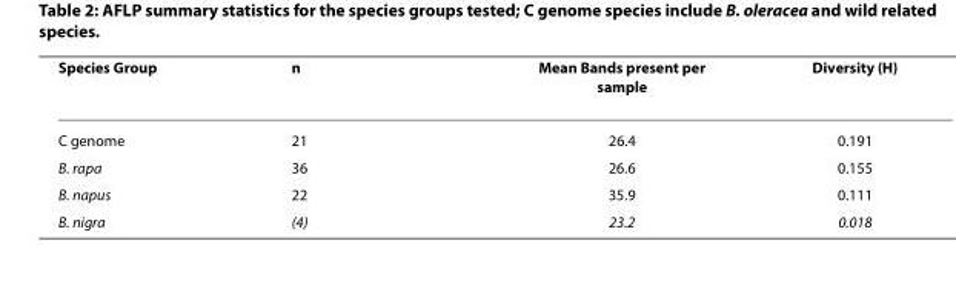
<table><thead><tr><td>Species Group</td><td>n</td><td>Mean Bands present per sample</td><td>Diversity (H)</td></tr></thead><tbody><tr><td>C genome</td><td>21</td><td>26.4</td><td>0.191</td></tr><tr><td>B. rapa</td><td>36</td><td>26.6</td><td>0.155</td></tr><tr><td>B. napus</td><td>22</td><td>35.9</td><td>0.111</td></tr><tr><td>B. nigra</td><td>(4)</td><td>23.2</td><td>0.018</td></tr></tbody></table>